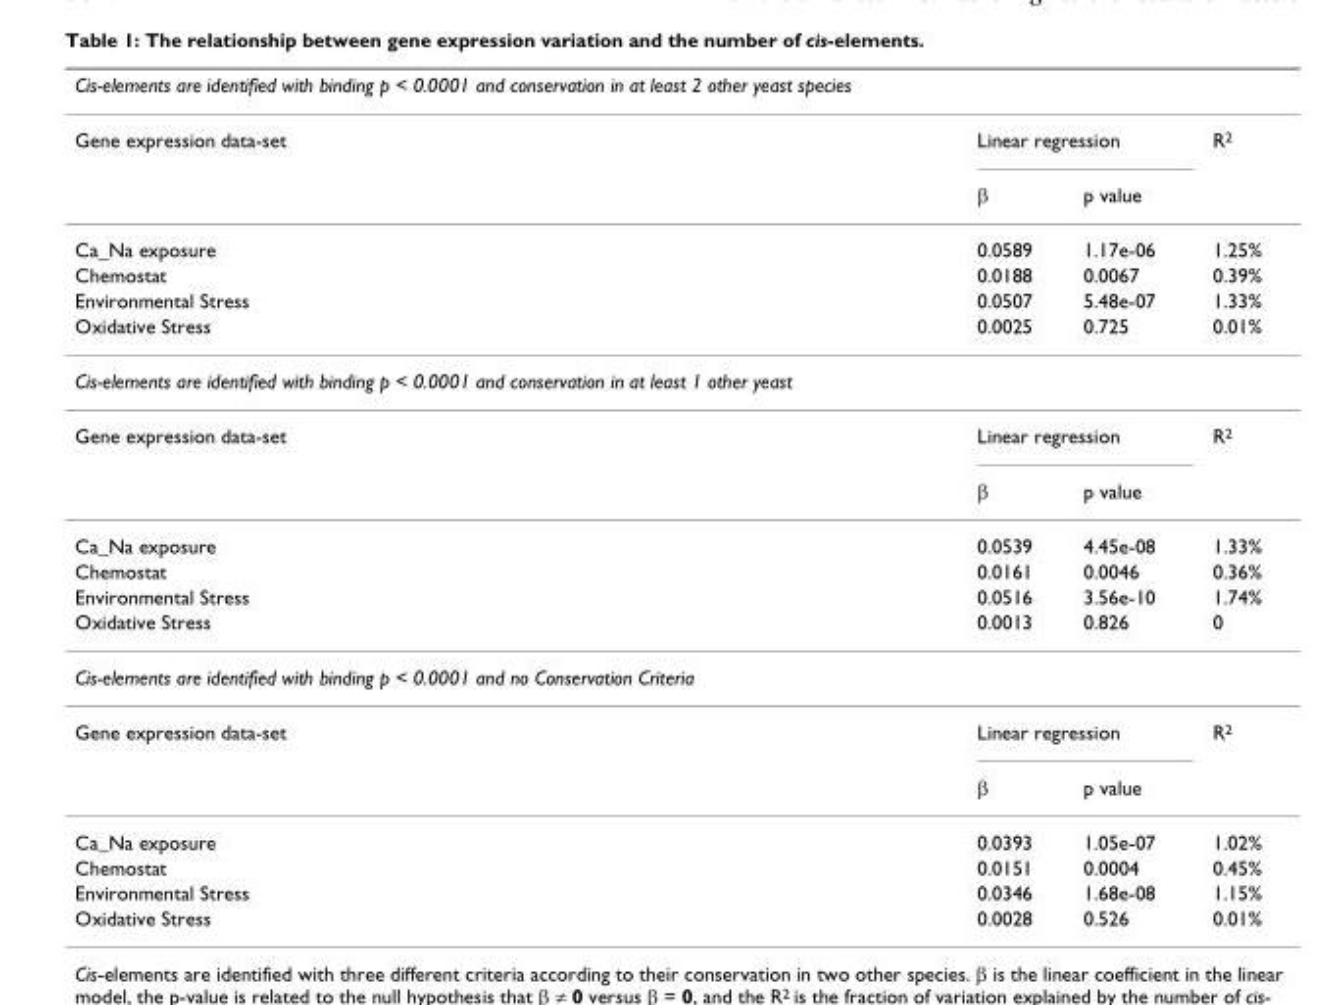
<table><thead><tr><td colspan="4">Cis-elements are identified with binding p &lt; 0.0001 and conservation in at least 2 other yeast species</td></tr><tr><td rowspan="2">Gene expression data-set</td><td colspan="2">Linear regression</td><td rowspan="2">R<sup>2</sup></td></tr><tr><td>β</td><td>p value</td></tr></thead><tbody><tr><td>Ca_Na exposure</td><td>0.0589</td><td>1.17e-06</td><td>1.25%</td></tr><tr><td>Chemostat</td><td>0.0188</td><td>0.0067</td><td>0.39%</td></tr><tr><td>Environmental Stress</td><td>0.0507</td><td>5.48e-07</td><td>1.33%</td></tr><tr><td>Oxidative Stress</td><td>0.0025</td><td>0.725</td><td>0.01%</td></tr><tr><td colspan="4">Cis-elements are identified with binding p &lt; 0.0001 and conservation in at least 1 other yeast</td></tr><tr><td rowspan="2">Gene expression data-set</td><td colspan="2">Linear regression</td><td>R<sup>2</sup></td></tr><tr><td>β</td><td>p value</td><td></td></tr><tr><td>Ca_Na exposure</td><td>0.0539</td><td>4.45e-08</td><td>1.33%</td></tr><tr><td>Chemostat</td><td>0.0161</td><td>0.0046</td><td>0.36%</td></tr><tr><td>Environmental Stress</td><td>0.0516</td><td>3.56e-10</td><td>1.74%</td></tr><tr><td>Oxidative Stress</td><td>0.0013</td><td>0.826</td><td>0</td></tr><tr><td colspan="4">Cis-elements are identified with binding p &lt; 0.0001 and no Conservation Criteria</td></tr><tr><td rowspan="2">Gene expression data-set</td><td colspan="2">Linear regression</td><td>R<sup>2</sup></td></tr><tr><td>β</td><td>p value</td><td></td></tr><tr><td>Ca_Na exposure</td><td>0.0393</td><td>1.05e-07</td><td>1.02%</td></tr><tr><td>Chemostat</td><td>0.0151</td><td>0.0004</td><td>0.45%</td></tr><tr><td>Environmental Stress</td><td>0.0346</td><td>1.68e-08</td><td>1.15%</td></tr><tr><td>Oxidative Stress</td><td>0.0028</td><td>0.526</td><td>0.01%</td></tr></tbody></table>